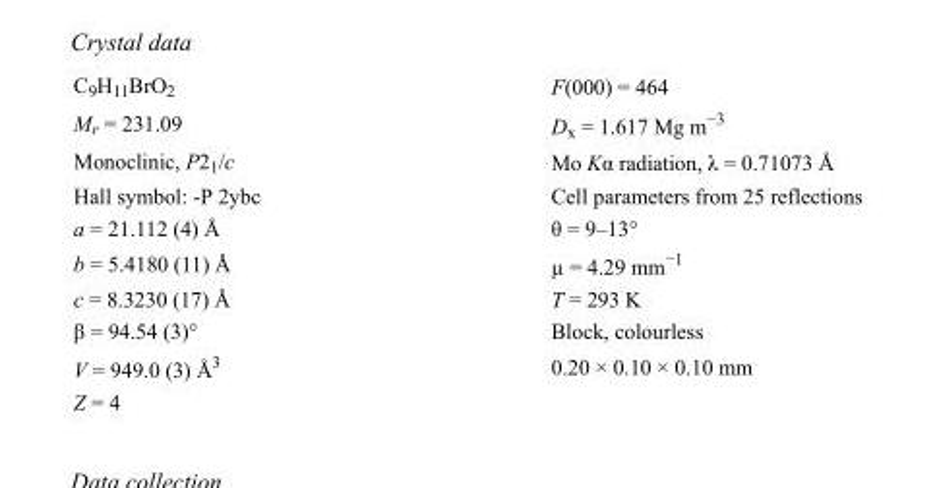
<table><tbody><tr><td>C<sub>9</sub>H<sub>11</sub>BrO<sub>2</sub></td><td>F(000) = 464</td></tr><tr><td>M<sub>r</sub> = 231.09</td><td>D<sub>x</sub> = 1.617 Mg m<sup>−3</sup></td></tr><tr><td>Monoclinic, P2<sub>1</sub>/c</td><td>Mo Kα radiation, λ = 0.71073 Å</td></tr><tr><td>Hall symbol: -P 2ybc</td><td>Cell parameters from 25 reflections</td></tr><tr><td>a = 21.112 (4) Å</td><td>θ = 9–13°</td></tr><tr><td>b = 5.4180 (11) Å</td><td>µ = 4.29 mm<sup>−1</sup></td></tr><tr><td>c = 8.3230 (17) Å</td><td>T = 293 K</td></tr><tr><td>β = 94.54 (3)°</td><td>Block, colourless</td></tr><tr><td>V = 949.0 (3) Å<sup>3</sup></td><td>0.20 × 0.10 × 0.10 mm</td></tr><tr><td>Z = 4</td><td></td></tr></tbody></table>